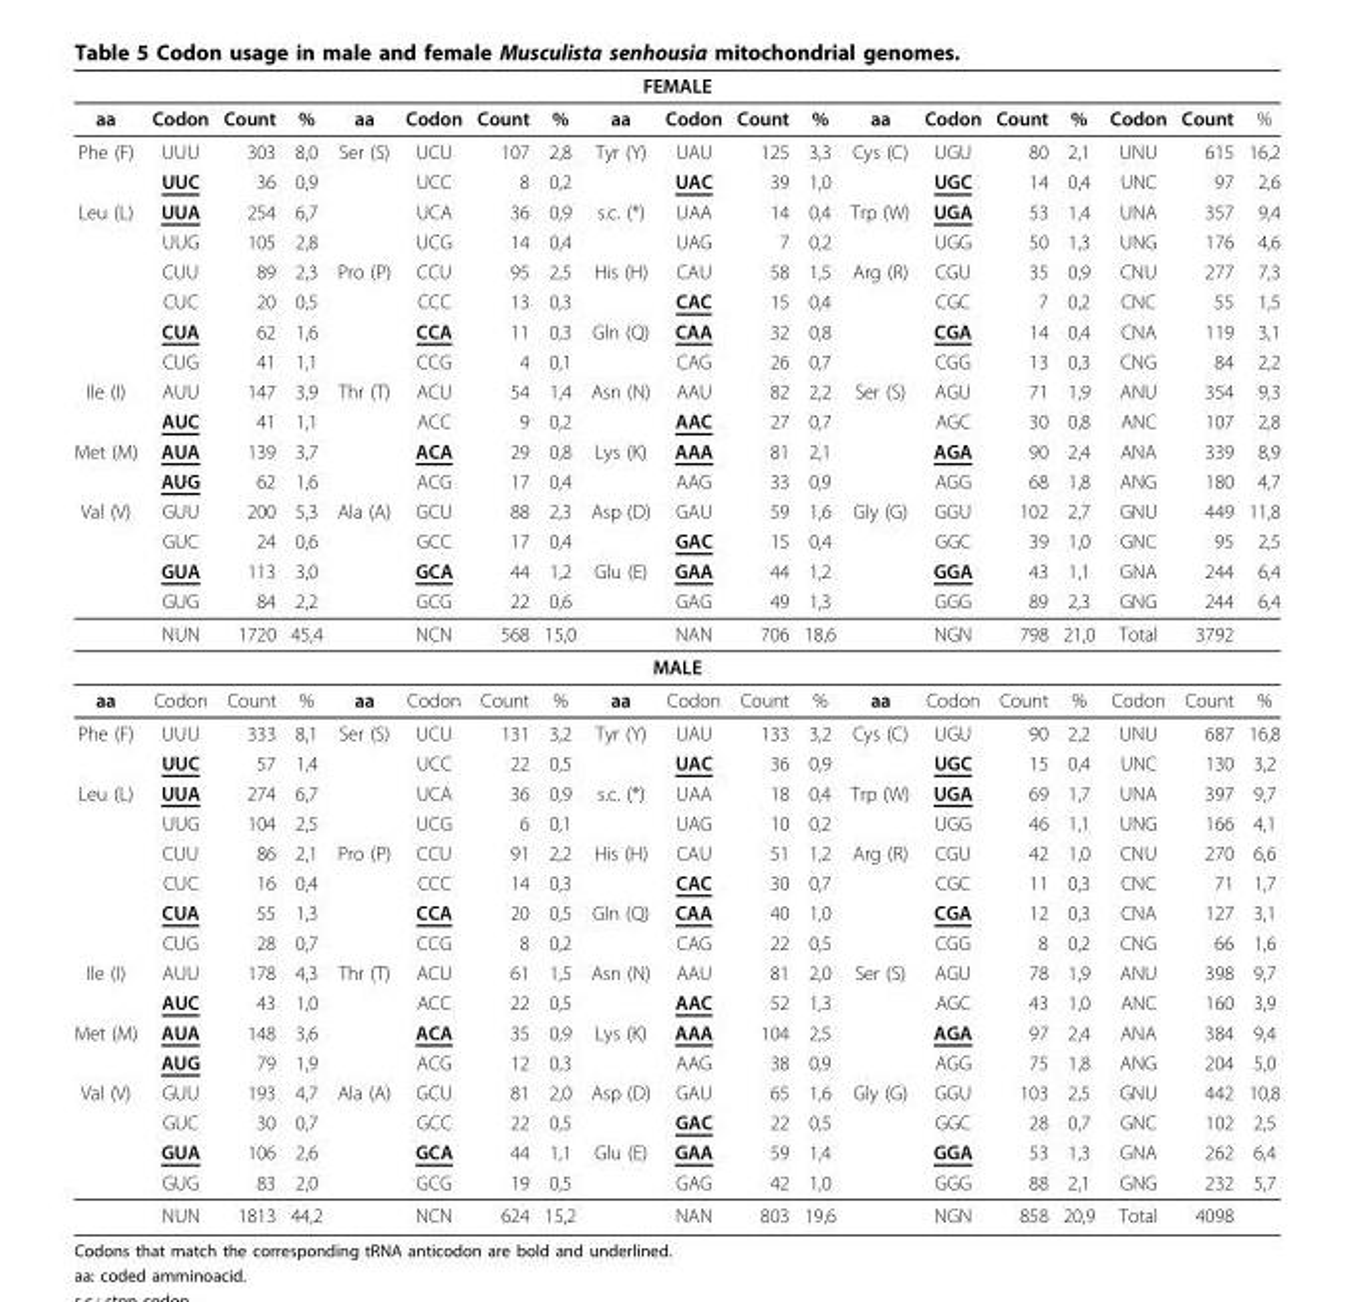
<table><thead><tr><td colspan="19">FEMALE</td></tr><tr><td>aa</td><td>Codon</td><td>Count</td><td>%</td><td>aa</td><td>Codon</td><td>Count</td><td>%</td><td>aa</td><td>Codon</td><td>Count</td><td>%</td><td>aa</td><td>Codon</td><td>Count</td><td>%</td><td>Codon</td><td>Count</td><td>%</td></tr></thead><tbody><tr><td rowspan="2">Phe (F)</td><td>UUU</td><td>303</td><td>8,0</td><td>Ser (S)</td><td>UCU</td><td>107</td><td>2,8</td><td>Tyr (Y)</td><td>UAU</td><td>125</td><td>3,3</td><td>Cys (C)</td><td>UGU</td><td>80</td><td>2,1</td><td>UNU</td><td>615</td><td>16,2</td></tr><tr><td>UUC</td><td>36</td><td>0,9</td><td></td><td>UCC</td><td>8</td><td>0,2</td><td></td><td>UAC</td><td>39</td><td>1,0</td><td></td><td>UGC</td><td>14</td><td>0,4</td><td>UNC</td><td>97</td><td>2,6</td></tr><tr><td rowspan="6">Leu (L)</td><td>UUA</td><td>254</td><td>6,7</td><td></td><td>UCA</td><td>36</td><td>0,9</td><td>s.c. (*)</td><td>UAA</td><td>14</td><td>0,4</td><td>Trp (W)</td><td>UGA</td><td>53</td><td>1,4</td><td>UNA</td><td>357</td><td>9,4</td></tr><tr><td>UUG</td><td>105</td><td>2,8</td><td></td><td>UCG</td><td>14</td><td>0,4</td><td></td><td>UAG</td><td>7</td><td>0,2</td><td></td><td>UGG</td><td>50</td><td>1,3</td><td>UNG</td><td>176</td><td>4,6</td></tr><tr><td>CUU</td><td>89</td><td>2,3</td><td>Pro (P)</td><td>CCU</td><td>95</td><td>2,5</td><td>His (H)</td><td>CAU</td><td>58</td><td>1,5</td><td>Arg (R)</td><td>CGU</td><td>35</td><td>0,9</td><td>CNU</td><td>277</td><td>7,3</td></tr><tr><td>CUC</td><td>20</td><td>0,5</td><td></td><td>CCC</td><td>13</td><td>0,3</td><td></td><td>CAC</td><td>15</td><td>0,4</td><td></td><td>CGC</td><td>7</td><td>0,2</td><td>CNC</td><td>55</td><td>1,5</td></tr><tr><td>CUA</td><td>62</td><td>1,6</td><td></td><td>CCA</td><td>11</td><td>0,3</td><td>Gln (Q)</td><td>CAA</td><td>32</td><td>0,8</td><td></td><td>CGA</td><td>14</td><td>0,4</td><td>CNA</td><td>119</td><td>3,1</td></tr><tr><td>CUG</td><td>41</td><td>1,1</td><td></td><td>CCG</td><td>4</td><td>0,1</td><td></td><td>CAG</td><td>26</td><td>0,7</td><td></td><td>CGG</td><td>13</td><td>0,3</td><td>CNG</td><td>84</td><td>2,2</td></tr><tr><td rowspan="2">Ile (I)</td><td>AUU</td><td>147</td><td>3,9</td><td>Thr (T)</td><td>ACU</td><td>54</td><td>1,4</td><td>Asn (N)</td><td>AAU</td><td>82</td><td>2,2</td><td>Ser (S)</td><td>AGU</td><td>71</td><td>1,9</td><td>ANU</td><td>354</td><td>9,3</td></tr><tr><td>AUC</td><td>41</td><td>1,1</td><td></td><td>ACC</td><td>9</td><td>0,2</td><td></td><td>AAC</td><td>27</td><td>0,7</td><td></td><td>AGC</td><td>30</td><td>0,8</td><td>ANC</td><td>107</td><td>2,8</td></tr><tr><td rowspan="2">Met (M)</td><td>AUA</td><td>139</td><td>3,7</td><td></td><td>ACA</td><td>29</td><td>0,8</td><td>Lys (K)</td><td>AAA</td><td>81</td><td>2,1</td><td></td><td>AGA</td><td>90</td><td>2,4</td><td>ANA</td><td>339</td><td>8,9</td></tr><tr><td>AUG</td><td>62</td><td>1,6</td><td></td><td>ACG</td><td>17</td><td>0,4</td><td></td><td>AAG</td><td>33</td><td>0,9</td><td></td><td>AGG</td><td>68</td><td>1,8</td><td>ANG</td><td>180</td><td>4,7</td></tr><tr><td rowspan="5">Val (V)</td><td>GUU</td><td>200</td><td>5,3</td><td>Ala (A)</td><td>GCU</td><td>88</td><td>2,3</td><td>Asp (D)</td><td>GAU</td><td>59</td><td>1,6</td><td>Gly (G)</td><td>GGU</td><td>102</td><td>2,7</td><td>GNU</td><td>449</td><td>11,8</td></tr><tr><td>GUC</td><td>24</td><td>0,6</td><td></td><td>GCC</td><td>17</td><td>0,4</td><td></td><td>GAC</td><td>15</td><td>0,4</td><td></td><td>GGC</td><td>39</td><td>1,0</td><td>GNC</td><td>95</td><td>2,5</td></tr><tr><td>GUA</td><td>113</td><td>3,0</td><td></td><td>GCA</td><td>44</td><td>1,2</td><td>Glu (E)</td><td>GAA</td><td>44</td><td>1,2</td><td></td><td>GGA</td><td>43</td><td>1,1</td><td>GNA</td><td>244</td><td>6,4</td></tr><tr><td>GUG</td><td>84</td><td>2,2</td><td></td><td>GCG</td><td>22</td><td>0,6</td><td></td><td>GAG</td><td>49</td><td>1,3</td><td></td><td>GGG</td><td>89</td><td>2,3</td><td>GNG</td><td>244</td><td>6,4</td></tr><tr><td>NUN</td><td>1720</td><td>45,4</td><td></td><td>NCN</td><td>568</td><td>15,0</td><td></td><td>NAN</td><td>706</td><td>18,6</td><td></td><td>NGN</td><td>798</td><td>21,0</td><td>Total</td><td>3792</td><td></td></tr><tr><td colspan="19">MALE</td></tr><tr><td>aa</td><td>Codon</td><td>Count</td><td>%</td><td>aa</td><td>Codon</td><td>Count</td><td>%</td><td>aa</td><td>Codon</td><td>Count</td><td>%</td><td>aa</td><td>Codon</td><td>Count</td><td>%</td><td>Codon</td><td>Count</td><td>%</td></tr><tr><td rowspan="2">Phe (F)</td><td>UUU</td><td>333</td><td>8,1</td><td>Ser (S)</td><td>UCU</td><td>131</td><td>3,2</td><td>Tyr (Y)</td><td>UAU</td><td>133</td><td>3,2</td><td>Cys (C)</td><td>UGU</td><td>90</td><td>2,2</td><td>UNU</td><td>687</td><td>16,8</td></tr><tr><td>UUC</td><td>57</td><td>1,4</td><td></td><td>UCC</td><td>22</td><td>0,5</td><td></td><td>UAC</td><td>36</td><td>0,9</td><td></td><td>UGC</td><td>15</td><td>0,4</td><td>UNC</td><td>130</td><td>3,2</td></tr><tr><td rowspan="6">Leu (L)</td><td>UUA</td><td>274</td><td>6,7</td><td></td><td>UCA</td><td>36</td><td>0,9</td><td>s.c. (*)</td><td>UAA</td><td>18</td><td>0,4</td><td>Trp (W)</td><td>UGA</td><td>69</td><td>1,7</td><td>UNA</td><td>397</td><td>9,7</td></tr><tr><td>UUG</td><td>104</td><td>2,5</td><td></td><td>UCG</td><td>6</td><td>0,1</td><td></td><td>UAG</td><td>10</td><td>0,2</td><td></td><td>UGG</td><td>46</td><td>1,1</td><td>UNG</td><td>166</td><td>4,1</td></tr><tr><td>CUU</td><td>86</td><td>2,1</td><td>Pro (P)</td><td>CCU</td><td>91</td><td>2,2</td><td>His (H)</td><td>CAU</td><td>51</td><td>1,2</td><td>Arg (R)</td><td>CGU</td><td>42</td><td>1,0</td><td>CNU</td><td>270</td><td>6,6</td></tr><tr><td>CUC</td><td>16</td><td>0,4</td><td></td><td>CCC</td><td>14</td><td>0,3</td><td></td><td>CAC</td><td>30</td><td>0,7</td><td></td><td>CGC</td><td>11</td><td>0,3</td><td>CNC</td><td>71</td><td>1,7</td></tr><tr><td>CUA</td><td>55</td><td>1,3</td><td></td><td>CCA</td><td>20</td><td>0,5</td><td>Gln (Q)</td><td>CAA</td><td>40</td><td>1,0</td><td></td><td>CGA</td><td>12</td><td>0,3</td><td>CNA</td><td>127</td><td>3,1</td></tr><tr><td>CUG</td><td>28</td><td>0,7</td><td></td><td>CCG</td><td>8</td><td>0,2</td><td></td><td>CAG</td><td>22</td><td>0,5</td><td></td><td>CGG</td><td>8</td><td>0,2</td><td>CNG</td><td>66</td><td>1,6</td></tr><tr><td rowspan="2">Ile (I)</td><td>AUU</td><td>178</td><td>4,3</td><td>Thr (T)</td><td>ACU</td><td>61</td><td>1,5</td><td>Asn (N)</td><td>AAU</td><td>81</td><td>2,0</td><td>Ser (S)</td><td>AGU</td><td>78</td><td>1,9</td><td>ANU</td><td>398</td><td>9,7</td></tr><tr><td>AUC</td><td>43</td><td>1,0</td><td></td><td>ACC</td><td>22</td><td>0,5</td><td></td><td>AAC</td><td>52</td><td>1,3</td><td></td><td>AGC</td><td>43</td><td>1,0</td><td>ANC</td><td>160</td><td>3,9</td></tr><tr><td rowspan="2">Met (M)</td><td>AUA</td><td>148</td><td>3,6</td><td></td><td>ACA</td><td>35</td><td>0,9</td><td>Lys (K)</td><td>AAA</td><td>104</td><td>2,5</td><td></td><td>AGA</td><td>97</td><td>2,4</td><td>ANA</td><td>384</td><td>9,4</td></tr><tr><td>AUG</td><td>79</td><td>1,9</td><td></td><td>ACG</td><td>12</td><td>0,3</td><td></td><td>AAG</td><td>38</td><td>0,9</td><td></td><td>AGG</td><td>75</td><td>1,8</td><td>ANG</td><td>204</td><td>5,0</td></tr><tr><td rowspan="5">Val (V)</td><td>GUU</td><td>193</td><td>4,7</td><td>Ala (A)</td><td>GCU</td><td>81</td><td>2,0</td><td>Asp (D)</td><td>GAU</td><td>65</td><td>1,6</td><td>Gly (G)</td><td>GGU</td><td>103</td><td>2,5</td><td>GNU</td><td>442</td><td>10,8</td></tr><tr><td>GUC</td><td>30</td><td>0,7</td><td></td><td>GCC</td><td>22</td><td>0,5</td><td></td><td>GAC</td><td>22</td><td>0,5</td><td></td><td>GGC</td><td>28</td><td>0,7</td><td>GNC</td><td>102</td><td>2,5</td></tr><tr><td>GUA</td><td>106</td><td>2,6</td><td></td><td>GCA</td><td>44</td><td>1,1</td><td>Glu (E)</td><td>GAA</td><td>59</td><td>1,4</td><td></td><td>GGA</td><td>53</td><td>1,3</td><td>GNA</td><td>262</td><td>6,4</td></tr><tr><td>GUG</td><td>83</td><td>2,0</td><td></td><td>GCG</td><td>19</td><td>0,5</td><td></td><td>GAG</td><td>42</td><td>1,0</td><td></td><td>GGG</td><td>88</td><td>2,1</td><td>GNG</td><td>232</td><td>5,7</td></tr><tr><td>NUN</td><td>1813</td><td>44,2</td><td></td><td>NCN</td><td>624</td><td>15,2</td><td></td><td>NAN</td><td>803</td><td>19,6</td><td></td><td>NGN</td><td>858</td><td>20,9</td><td>Total</td><td>4098</td><td></td></tr></tbody></table>